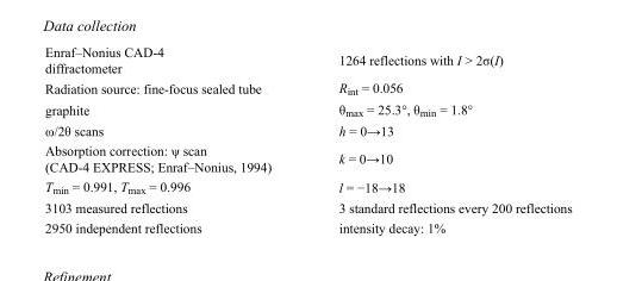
<table><tbody><tr><td>Enraf–Nonius CAD-4 diffractometer</td><td>1264 reflections with I &gt; 2σ(I)</td></tr><tr><td>Radiation source: fine-focus sealed tube</td><td>R<sub>int</sub> = 0.056</td></tr><tr><td>graphite</td><td>θ<sub>max</sub> = 25.3°, θ<sub>min</sub> = 1.8°</td></tr><tr><td>ω/2θ scans</td><td>h = 0→13</td></tr><tr><td>Absorption correction: ψ scan (CAD-4 EXPRESS; Enraf–Nonius, 1994)</td><td>k = 0→10</td></tr><tr><td>T<sub>min</sub> = 0.991, T<sub>max</sub> = 0.996</td><td>l = −18→18</td></tr><tr><td>3103 measured reflections</td><td>3 standard reflections every 200 reflections</td></tr><tr><td>2950 independent reflections</td><td>intensity decay: 1%</td></tr></tbody></table>